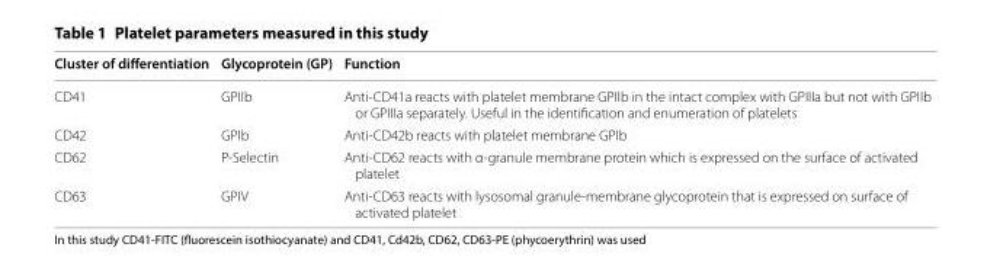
<table><thead><tr><td>Cluster of differentiation</td><td>Glycoprotein (GP)</td><td>Function</td></tr></thead><tbody><tr><td>CD41</td><td>GPIIb</td><td>Anti-CD41a reacts with platelet membrane GPIIb in the intact complex with GPIIIa but not with GPIIb or GPIIIa separately. Useful in the identification and enumeration of platelets</td></tr><tr><td>CD42</td><td>GPIb</td><td>Anti-CD42b reacts with platelet membrane GPIb</td></tr><tr><td>CD62</td><td>P-Selectin</td><td>Anti-CD62 reacts with α-granule membrane protein which is expressed on the surface of activated platelet</td></tr><tr><td>CD63</td><td>GPIV</td><td>Anti-CD63 reacts with lysosomal granule-membrane glycoprotein that is expressed on surface of activated platelet</td></tr></tbody></table>